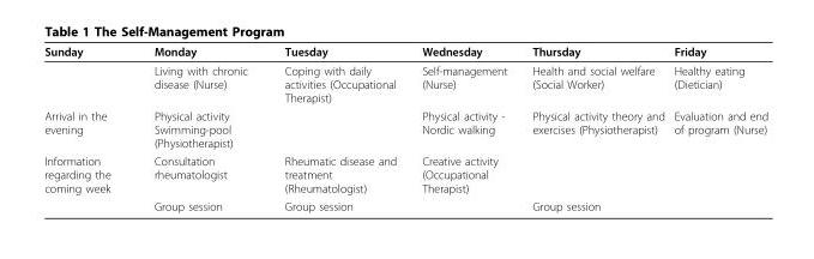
<table><thead><tr><td>Sunday</td><td>Monday</td><td>Tuesday</td><td>Wednesday</td><td>Thursday</td><td>Friday</td></tr></thead><tbody><tr><td></td><td>Living with chronic disease (Nurse)</td><td>Coping with daily activities (Occupational Therapist)</td><td>Self-management (Nurse)</td><td>Health and social welfare (Social Worker)</td><td>Healthy eating (Dietician)</td></tr><tr><td>Arrival in the evening</td><td>Physical activity Swimming-pool (Physiotherapist)</td><td></td><td>Physical activity - Nordic walking</td><td>Physical activity theory and exercises (Physiotherapist)</td><td>Evaluation and end of program (Nurse)</td></tr><tr><td rowspan="2">Information regarding the coming week</td><td>Consultation rheumatologist</td><td>Rheumatic disease and treatment (Rheumatologist)</td><td>Creative activity (Occupational Therapist)</td><td></td><td></td></tr><tr><td>Group session</td><td>Group session</td><td></td><td>Group session</td><td></td></tr></tbody></table>